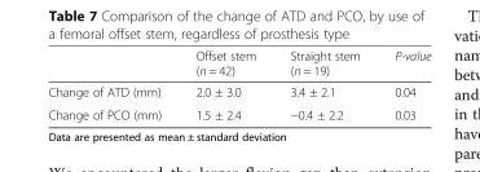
<table><thead><tr><td></td><td>Offset stem (n = 42)</td><td>Straight stem (n = 19)</td><td>P-value</td></tr></thead><tbody><tr><td>Change of ATD (mm)</td><td>2.0 ± 3.0</td><td>3.4 ± 2.1</td><td>0.04</td></tr><tr><td>Change of PCO (mm)</td><td>1.5 ± 2.4</td><td>−0.4 ± 2.2</td><td>0.03</td></tr></tbody></table>